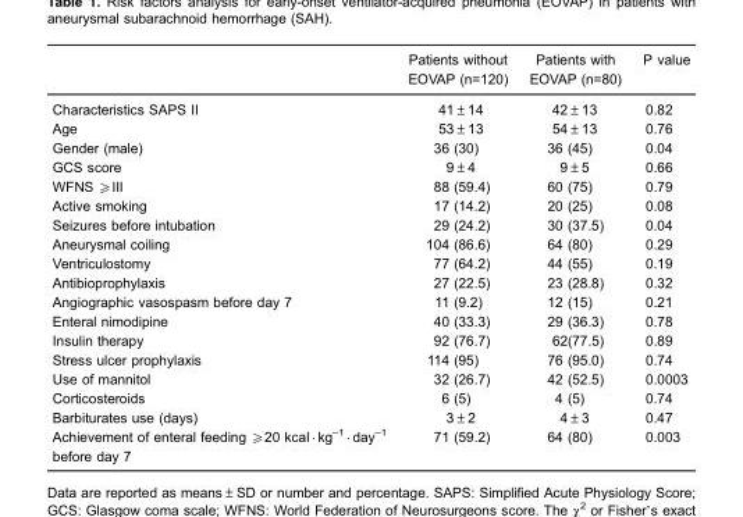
<table><thead><tr><td></td><td>Patients without EOVAP (n=120)</td><td>Patients with EOVAP (n=80)</td><td>P value</td></tr></thead><tbody><tr><td>Characteristics SAPS II</td><td>41±14</td><td>42±13</td><td>0.82</td></tr><tr><td>Age</td><td>53±13</td><td>54±13</td><td>0.76</td></tr><tr><td>Gender (male)</td><td>36 (30)</td><td>36 (45)</td><td>0.04</td></tr><tr><td>GCS score</td><td>9±4</td><td>9±5</td><td>0.66</td></tr><tr><td>WFNS ≥III</td><td>88 (59.4)</td><td>60 (75)</td><td>0.79</td></tr><tr><td>Active smoking</td><td>17 (14.2)</td><td>20 (25)</td><td>0.08</td></tr><tr><td>Seizures before intubation</td><td>29 (24.2)</td><td>30 (37.5)</td><td>0.04</td></tr><tr><td>Aneurysmal coiling</td><td>104 (86.6)</td><td>64 (80)</td><td>0.29</td></tr><tr><td>Ventriculostomy</td><td>77 (64.2)</td><td>44 (55)</td><td>0.19</td></tr><tr><td>Antibioprophylaxis</td><td>27 (22.5)</td><td>23 (28.8)</td><td>0.32</td></tr><tr><td>Angiographic vasospasm before day 7</td><td>11 (9.2)</td><td>12 (15)</td><td>0.21</td></tr><tr><td>Enteral nimodipine</td><td>40 (33.3)</td><td>29 (36.3)</td><td>0.78</td></tr><tr><td>Insulin therapy</td><td>92 (76.7)</td><td>62(77.5)</td><td>0.89</td></tr><tr><td>Stress ulcer prophylaxis</td><td>114 (95)</td><td>76 (95.0)</td><td>0.74</td></tr><tr><td>Use of mannitol</td><td>32 (26.7)</td><td>42 (52.5)</td><td>0.0003</td></tr><tr><td>Corticosteroids</td><td>6 (5)</td><td>4 (5)</td><td>0.74</td></tr><tr><td>Barbiturates use (days)</td><td>3±2</td><td>4±3</td><td>0.47</td></tr><tr><td>Achievement of enteral feeding ≥20 kcal · kg–1 · day–1 before day 7</td><td>71 (59.2)</td><td>64 (80)</td><td>0.003</td></tr></tbody></table>